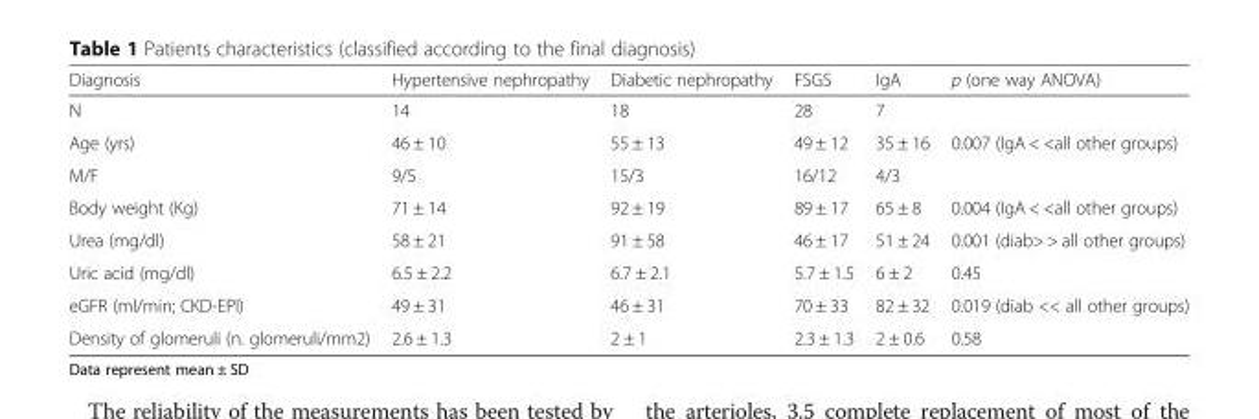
<table><thead><tr><td>Diagnosis</td><td>Hypertensive nephropathy</td><td>Diabetic nephropathy</td><td>FSGS</td><td>IgA</td><td>p (one way ANOVA)</td></tr></thead><tbody><tr><td>N</td><td>14</td><td>18</td><td>28</td><td>7</td><td></td></tr><tr><td>Age (yrs)</td><td>46 ± 10</td><td>55 ± 13</td><td>49 ± 12</td><td>35 ± 16</td><td>0.007 (IgA &lt; &lt;all other groups)</td></tr><tr><td>M/F</td><td>9/5</td><td>15/3</td><td>16/12</td><td>4/3</td><td></td></tr><tr><td>Body weight (Kg)</td><td>71 ± 14</td><td>92 ± 19</td><td>89 ± 17</td><td>65 ± 8</td><td>0.004 (IgA &lt; &lt;all other groups)</td></tr><tr><td>Urea (mg/dl)</td><td>58 ± 21</td><td>91 ± 58</td><td>46 ± 17</td><td>51 ± 24</td><td>0.001 (diab&gt; &gt; all other groups)</td></tr><tr><td>Uric acid (mg/dl)</td><td>6.5 ± 2.2</td><td>6.7 ± 2.1</td><td>5.7 ± 1.5</td><td>6 ± 2</td><td>0.45</td></tr><tr><td>eGFR (ml/min; CKD-EPI)</td><td>49 ± 31</td><td>46 ± 31</td><td>70 ± 33</td><td>82 ± 32</td><td>0.019 (diab &lt;&lt; all other groups)</td></tr><tr><td>Density of glomeruli (n. glomeruli/mm2)</td><td>2.6 ± 1.3</td><td>2 ± 1</td><td>2.3 ± 1.3</td><td>2 ± 0.6</td><td>0.58</td></tr></tbody></table>